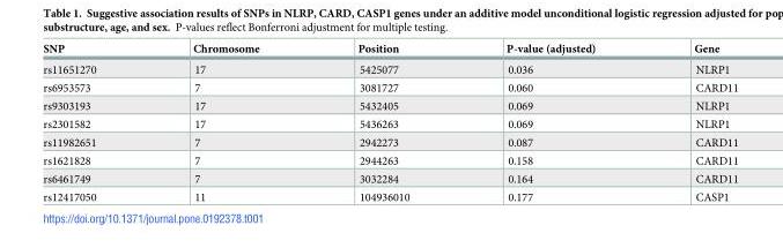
<table><thead><tr><td>SNP</td><td>Chromosome</td><td>Position</td><td>P-value (adjusted)</td><td>Gene</td></tr></thead><tbody><tr><td>rs11651270</td><td>17</td><td>5425077</td><td>0.036</td><td>NLRP1</td></tr><tr><td>rs6953573</td><td>7</td><td>3081727</td><td>0.060</td><td>CARD11</td></tr><tr><td>rs9303193</td><td>17</td><td>5432405</td><td>0.069</td><td>NLRP1</td></tr><tr><td>rs2301582</td><td>17</td><td>5436263</td><td>0.069</td><td>NLRP1</td></tr><tr><td>rs11982651</td><td>7</td><td>2942273</td><td>0.087</td><td>CARD11</td></tr><tr><td>rs1621828</td><td>7</td><td>2944263</td><td>0.158</td><td>CARD11</td></tr><tr><td>rs6461749</td><td>7</td><td>3032284</td><td>0.164</td><td>CARD11</td></tr><tr><td>rs12417050</td><td>11</td><td>104936010</td><td>0.177</td><td>CASP1</td></tr></tbody></table>